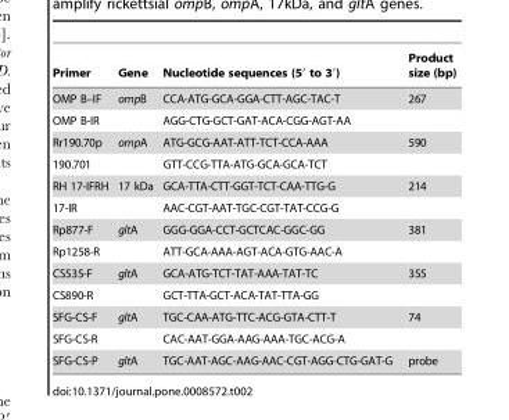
<table><thead><tr><td>Primer</td><td>Gene</td><td>Nucleotide sequences (5′ to 3′)</td><td>Product size (bp)</td></tr></thead><tbody><tr><td>OMP B–IF</td><td>ompB</td><td>CCA-ATG-GCA-GGA-CTT-AGC-TAC-T</td><td>267</td></tr><tr><td>OMP B-IR</td><td></td><td>AGG-CTG-GCT-GAT-ACA-CGG-AGT-AA</td><td></td></tr><tr><td>Rr190.70p</td><td>ompA</td><td>ATG-GCG-AAT-ATT-TCT-CCA-AAA</td><td>590</td></tr><tr><td>190.701</td><td></td><td>GTT-CCG-TTA-ATG-GCA-GCA-TCT</td><td></td></tr><tr><td>RH 17-IFRH</td><td>17 kDa</td><td>GCA-TTA-CTT-GGT-TCT-CAA-TTG-G</td><td>214</td></tr><tr><td>17-IR</td><td></td><td>AAC-CGT-AAT-TGC-CGT-TAT-CCG-G</td><td></td></tr><tr><td>Rp877-F</td><td>gltA</td><td>GGG-GGA-CCT-GCTCAC-GGC-GG</td><td>381</td></tr><tr><td>Rp1258-R</td><td></td><td>ATT-GCA-AAA-AGT-ACA-GTG-AAC-A</td><td></td></tr><tr><td>CS535-F</td><td>gltA</td><td>GCA-ATG-TCT-TAT-AAA-TAT-TC</td><td>355</td></tr><tr><td>CS890-R</td><td></td><td>GCT-TTA-GCT-ACA-TAT-TTA-GG</td><td></td></tr><tr><td>SFG-CS-F</td><td>gltA</td><td>TGC-CAA-ATG-TTC-ACG-GTA-CTT-T</td><td>74</td></tr><tr><td>SFG-CS-R</td><td></td><td>CAC-AAT-GGA-AAG-AAA-TGC-ACG-A</td><td></td></tr><tr><td>SFG-CS-P</td><td>gltA</td><td>TGC-AAT-AGC-AAG-AAC-CGT-AGG-CTG-GAT-G</td><td>probe</td></tr></tbody></table>